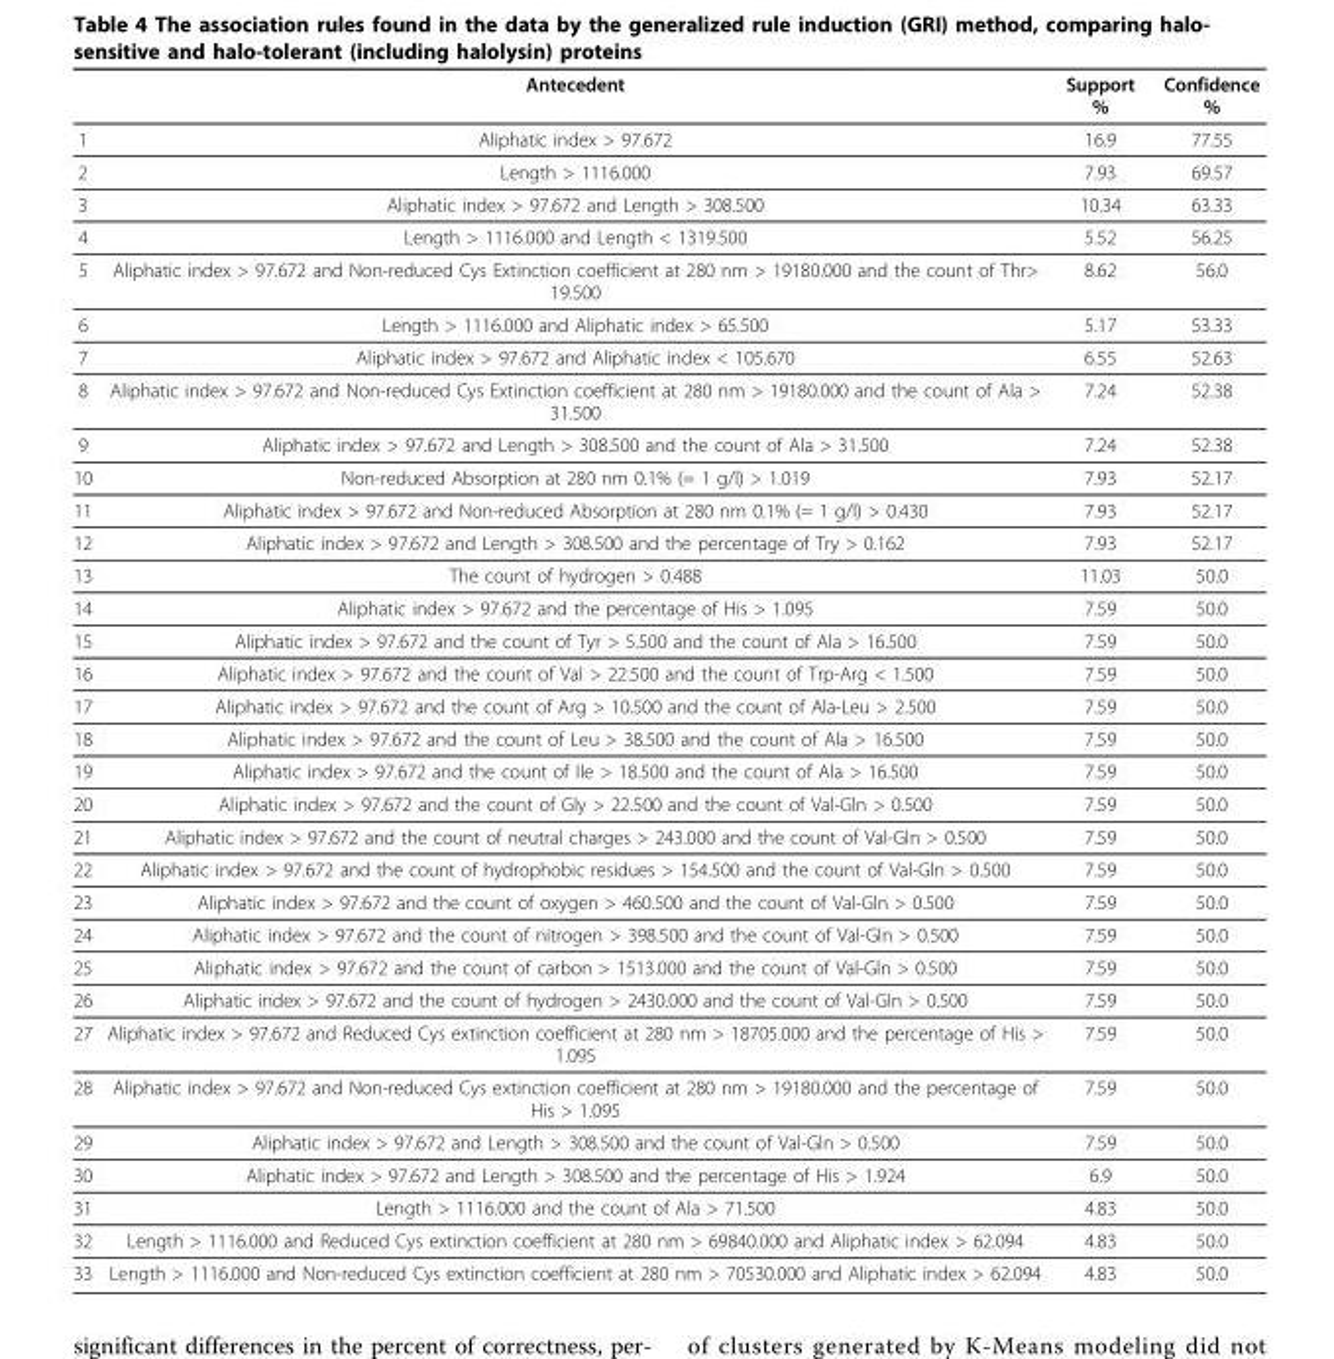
<table><thead><tr><td></td><td>Antecedent</td><td>Support %</td><td>Confidence %</td></tr></thead><tbody><tr><td>1</td><td>Aliphatic index &gt; 97.672</td><td>16.9</td><td>77.55</td></tr><tr><td>2</td><td>Length &gt; 1116.000</td><td>7.93</td><td>69.57</td></tr><tr><td>3</td><td>Aliphatic index &gt; 97.672 and Length &gt; 308.500</td><td>10.34</td><td>63.33</td></tr><tr><td>4</td><td>Length &gt; 1116.000 and Length &lt; 1319.500</td><td>5.52</td><td>56.25</td></tr><tr><td>5</td><td>Aliphatic index &gt; 97.672 and Non-reduced Cys Extinction coefficient at 280 nm &gt; 19180.000 and the count of Thr&gt; 19.500</td><td>8.62</td><td>56.0</td></tr><tr><td>6</td><td>Length &gt; 1116.000 and Aliphatic index &gt; 65.500</td><td>5.17</td><td>53.33</td></tr><tr><td>7</td><td>Aliphatic index &gt; 97.672 and Aliphatic index &lt; 105.670</td><td>6.55</td><td>52.63</td></tr><tr><td>8</td><td>Aliphatic index &gt; 97.672 and Non-reduced Cys Extinction coefficient at 280 nm &gt; 19180.000 and the count of Ala &gt; 31.500</td><td>7.24</td><td>52.38</td></tr><tr><td>9</td><td>Aliphatic index &gt; 97.672 and Length &gt; 308.500 and the count of Ala &gt; 31.500</td><td>7.24</td><td>52.38</td></tr><tr><td>10</td><td>Non-reduced Absorption at 280 nm 0.1% (= 1 g/l) &gt; 1.019</td><td>7.93</td><td>52.17</td></tr><tr><td>11</td><td>Aliphatic index &gt; 97.672 and Non-reduced Absorption at 280 nm 0.1% (= 1 g/l) &gt; 0.430</td><td>7.93</td><td>52.17</td></tr><tr><td>12</td><td>Aliphatic index &gt; 97.672 and Length &gt; 308.500 and the percentage of Try &gt; 0.162</td><td>7.93</td><td>52.17</td></tr><tr><td>13</td><td>The count of hydrogen &gt; 0.488</td><td>11.03</td><td>50.0</td></tr><tr><td>14</td><td>Aliphatic index &gt; 97.672 and the percentage of His &gt; 1.095</td><td>7.59</td><td>50.0</td></tr><tr><td>15</td><td>Aliphatic index &gt; 97.672 and the count of Tyr &gt; 5.500 and the count of Ala &gt; 16.500</td><td>7.59</td><td>50.0</td></tr><tr><td>16</td><td>Aliphatic index &gt; 97.672 and the count of Val &gt; 22.500 and the count of Trp-Arg &lt; 1.500</td><td>7.59</td><td>50.0</td></tr><tr><td>17</td><td>Aliphatic index &gt; 97.672 and the count of Arg &gt; 10.500 and the count of Ala-Leu &gt; 2.500</td><td>7.59</td><td>50.0</td></tr><tr><td>18</td><td>Aliphatic index &gt; 97.672 and the count of Leu &gt; 38.500 and the count of Ala &gt; 16.500</td><td>7.59</td><td>50.0</td></tr><tr><td>19</td><td>Aliphatic index &gt; 97.672 and the count of Ile &gt; 18.500 and the count of Ala &gt; 16.500</td><td>7.59</td><td>50.0</td></tr><tr><td>20</td><td>Aliphatic index &gt; 97.672 and the count of Gly &gt; 22.500 and the count of Val-Gln &gt; 0.500</td><td>7.59</td><td>50.0</td></tr><tr><td>21</td><td>Aliphatic index &gt; 97.672 and the count of neutral charges &gt; 243.000 and the count of Val-Gln &gt; 0.500</td><td>7.59</td><td>50.0</td></tr><tr><td>22</td><td>Aliphatic index &gt; 97.672 and the count of hydrophobic residues &gt; 154.500 and the count of Val-Gln &gt; 0.500</td><td>7.59</td><td>50.0</td></tr><tr><td>23</td><td>Aliphatic index &gt; 97.672 and the count of oxygen &gt; 460.500 and the count of Val-Gln &gt; 0.500</td><td>7.59</td><td>50.0</td></tr><tr><td>24</td><td>Aliphatic index &gt; 97.672 and the count of nitrogen &gt; 398.500 and the count of Val-Gln &gt; 0.500</td><td>7.59</td><td>50.0</td></tr><tr><td>25</td><td>Aliphatic index &gt; 97.672 and the count of carbon &gt; 1513.000 and the count of Val-Gln &gt; 0.500</td><td>7.59</td><td>50.0</td></tr><tr><td>26</td><td>Aliphatic index &gt; 97.672 and the count of hydrogen &gt; 2430.000 and the count of Val-Gln &gt; 0.500</td><td>7.59</td><td>50.0</td></tr><tr><td>27</td><td>Aliphatic index &gt; 97.672 and Reduced Cys extinction coefficient at 280 nm &gt; 18705.000 and the percentage of His &gt; 1.095</td><td>7.59</td><td>50.0</td></tr><tr><td>28</td><td>Aliphatic index &gt; 97.672 and Non-reduced Cys extinction coefficient at 280 nm &gt; 19180.000 and the percentage of His &gt; 1.095</td><td>7.59</td><td>50.0</td></tr><tr><td>29</td><td>Aliphatic index &gt; 97.672 and Length &gt; 308.500 and the count of Val-Gln &gt; 0.500</td><td>7.59</td><td>50.0</td></tr><tr><td>30</td><td>Aliphatic index &gt; 97.672 and Length &gt; 308.500 and the percentage of His &gt; 1.924</td><td>6.9</td><td>50.0</td></tr><tr><td>31</td><td>Length &gt; 1116.000 and the count of Ala &gt; 71.500</td><td>4.83</td><td>50.0</td></tr><tr><td>32</td><td>Length &gt; 1116.000 and Reduced Cys extinction coefficient at 280 nm &gt; 69840.000 and Aliphatic index &gt; 62.094</td><td>4.83</td><td>50.0</td></tr><tr><td>33</td><td>Length &gt; 1116.000 and Non-reduced Cys extinction coefficient at 280 nm &gt; 70530.000 and Aliphatic index &gt; 62.094</td><td>4.83</td><td>50.0</td></tr></tbody></table>